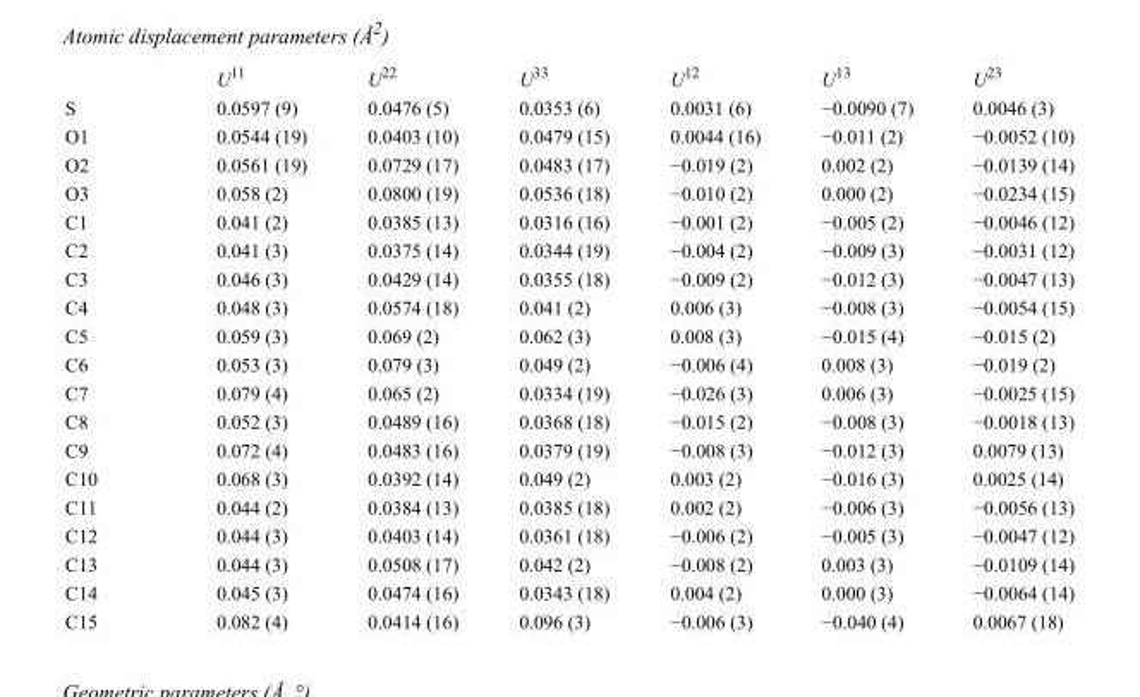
<table><thead><tr><td></td><td>U<sup>11</sup></td><td>U<sup>22</sup></td><td>U<sup>33</sup></td><td>U<sup>12</sup></td><td>U<sup>13</sup></td><td>U<sup>23</sup></td></tr></thead><tbody><tr><td>S</td><td>0.0597 (9)</td><td>0.0476 (5)</td><td>0.0353 (6)</td><td>0.0031 (6)</td><td>−0.0090 (7)</td><td>0.0046 (3)</td></tr><tr><td>O1</td><td>0.0544 (19)</td><td>0.0403 (10)</td><td>0.0479 (15)</td><td>0.0044 (16)</td><td>−0.011 (2)</td><td>−0.0052 (10)</td></tr><tr><td>O2</td><td>0.0561 (19)</td><td>0.0729 (17)</td><td>0.0483 (17)</td><td>−0.019 (2)</td><td>0.002 (2)</td><td>−0.0139 (14)</td></tr><tr><td>O3</td><td>0.058 (2)</td><td>0.0800 (19)</td><td>0.0536 (18)</td><td>−0.010 (2)</td><td>0.000 (2)</td><td>−0.0234 (15)</td></tr><tr><td>C1</td><td>0.041 (2)</td><td>0.0385 (13)</td><td>0.0316 (16)</td><td>−0.001 (2)</td><td>−0.005 (2)</td><td>−0.0046 (12)</td></tr><tr><td>C2</td><td>0.041 (3)</td><td>0.0375 (14)</td><td>0.0344 (19)</td><td>−0.004 (2)</td><td>−0.009 (3)</td><td>−0.0031 (12)</td></tr><tr><td>C3</td><td>0.046 (3)</td><td>0.0429 (14)</td><td>0.0355 (18)</td><td>−0.009 (2)</td><td>−0.012 (3)</td><td>−0.0047 (13)</td></tr><tr><td>C4</td><td>0.048 (3)</td><td>0.0574 (18)</td><td>0.041 (2)</td><td>0.006 (3)</td><td>−0.008 (3)</td><td>−0.0054 (15)</td></tr><tr><td>C5</td><td>0.059 (3)</td><td>0.069 (2)</td><td>0.062 (3)</td><td>0.008 (3)</td><td>−0.015 (4)</td><td>−0.015 (2)</td></tr><tr><td>C6</td><td>0.053 (3)</td><td>0.079 (3)</td><td>0.049 (2)</td><td>−0.006 (4)</td><td>0.008 (3)</td><td>−0.019 (2)</td></tr><tr><td>C7</td><td>0.079 (4)</td><td>0.065 (2)</td><td>0.0334 (19)</td><td>−0.026 (3)</td><td>0.006 (3)</td><td>−0.0025 (15)</td></tr><tr><td>C8</td><td>0.052 (3)</td><td>0.0489 (16)</td><td>0.0368 (18)</td><td>−0.015 (2)</td><td>−0.008 (3)</td><td>−0.0018 (13)</td></tr><tr><td>C9</td><td>0.072 (4)</td><td>0.0483 (16)</td><td>0.0379 (19)</td><td>−0.008 (3)</td><td>−0.012 (3)</td><td>0.0079 (13)</td></tr><tr><td>C10</td><td>0.068 (3)</td><td>0.0392 (14)</td><td>0.049 (2)</td><td>0.003 (2)</td><td>−0.016 (3)</td><td>0.0025 (14)</td></tr><tr><td>C11</td><td>0.044 (2)</td><td>0.0384 (13)</td><td>0.0385 (18)</td><td>0.002 (2)</td><td>−0.006 (3)</td><td>−0.0056 (13)</td></tr><tr><td>C12</td><td>0.044 (3)</td><td>0.0403 (14)</td><td>0.0361 (18)</td><td>−0.006 (2)</td><td>−0.005 (3)</td><td>−0.0047 (12)</td></tr><tr><td>C13</td><td>0.044 (3)</td><td>0.0508 (17)</td><td>0.042 (2)</td><td>−0.008 (2)</td><td>0.003 (3)</td><td>−0.0109 (14)</td></tr><tr><td>C14</td><td>0.045 (3)</td><td>0.0474 (16)</td><td>0.0343 (18)</td><td>0.004 (2)</td><td>0.000 (3)</td><td>−0.0064 (14)</td></tr><tr><td>C15</td><td>0.082 (4)</td><td>0.0414 (16)</td><td>0.096 (3)</td><td>−0.006 (3)</td><td>−0.040 (4)</td><td>0.0067 (18)</td></tr></tbody></table>